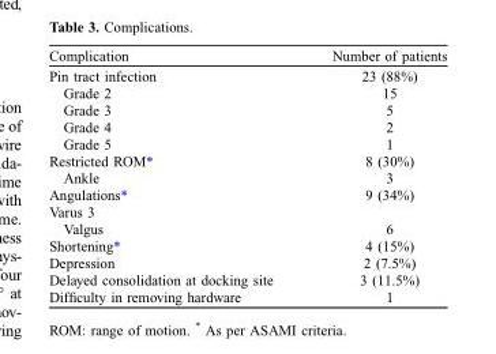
<table><thead><tr><td>Complication</td><td>Number of patients</td></tr></thead><tbody><tr><td>Pin tract infection</td><td>23 (88%)</td></tr><tr><td>Grade 2</td><td>15</td></tr><tr><td>Grade 3</td><td>5</td></tr><tr><td>Grade 4</td><td>2</td></tr><tr><td>Grade 5</td><td>1</td></tr><tr><td>Restricted ROM*</td><td>8 (30%)</td></tr><tr><td>Ankle</td><td>3</td></tr><tr><td>Angulations*</td><td>9 (34%)</td></tr><tr><td colspan="2">Varus 3</td></tr><tr><td>Valgus</td><td>6</td></tr><tr><td>Shortening*</td><td>4 (15%)</td></tr><tr><td>Depression</td><td>2 (7.5%)</td></tr><tr><td>Delayed consolidation at docking site</td><td>3 (11.5%)</td></tr><tr><td>Difficulty in removing hardware</td><td>1</td></tr></tbody></table>